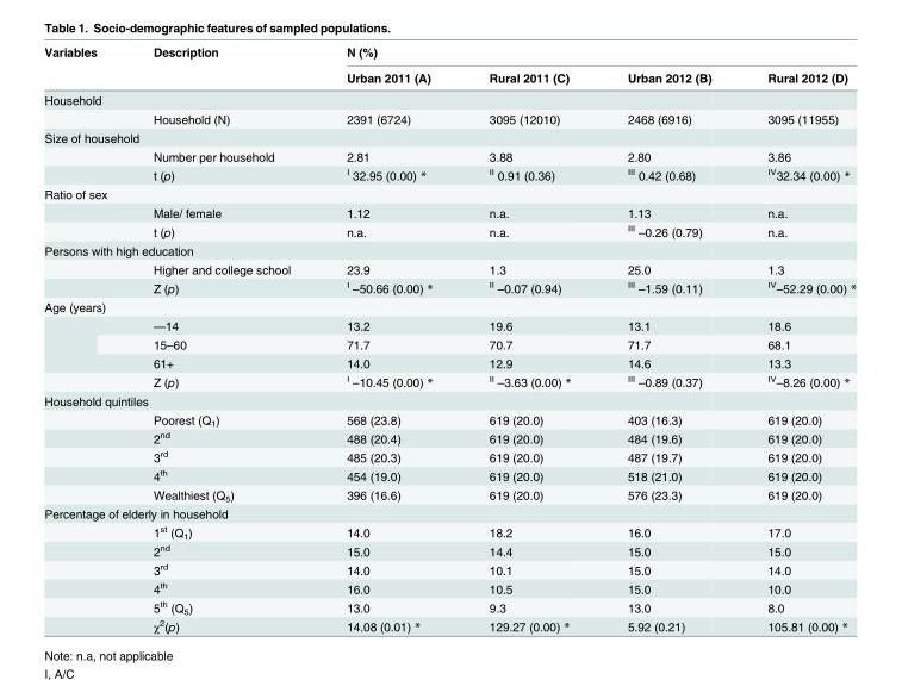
<table><thead><tr><td rowspan="2">Variables</td><td rowspan="2">Description</td><td colspan="4">N (%)</td></tr><tr><td>Urban 2011 (A)</td><td>Rural 2011 (C)</td><td>Urban 2012 (B)</td><td>Rural 2012 (D)</td></tr></thead><tbody><tr><td colspan="6">Household</td></tr><tr><td></td><td>Household (N)</td><td>2391 (6724)</td><td>3095 (12010)</td><td>2468 (6916)</td><td>3095 (11955)</td></tr><tr><td colspan="6">Size of household</td></tr><tr><td></td><td>Number per household</td><td>2.81</td><td>3.88</td><td>2.80</td><td>3.86</td></tr><tr><td></td><td>t (p)</td><td><sup>I</sup> 32.95 (0.00) *</td><td><sup>II</sup> 0.91 (0.36)</td><td><sup>III</sup> 0.42 (0.68)</td><td><sup>IV</sup>32.34 (0.00) *</td></tr><tr><td colspan="6">Ratio of sex</td></tr><tr><td></td><td>Male/ female</td><td>1.12</td><td>n.a.</td><td>1.13</td><td>n.a.</td></tr><tr><td></td><td>t (p)</td><td>n.a.</td><td>n.a.</td><td><sup>III</sup> –0.26 (0.79)</td><td>n.a.</td></tr><tr><td colspan="6">Persons with high education</td></tr><tr><td></td><td>Higher and college school</td><td>23.9</td><td>1.3</td><td>25.0</td><td>1.3</td></tr><tr><td></td><td>Z (p)</td><td><sup>I</sup> –50.66 (0.00) *</td><td><sup>II</sup> –0.07 (0.94)</td><td><sup>III</sup> –1.59 (0.11)</td><td><sup>IV</sup>–52.29 (0.00) *</td></tr><tr><td colspan="6">Age (years)</td></tr><tr><td rowspan="3"></td><td>—14</td><td>13.2</td><td>19.6</td><td>13.1</td><td>18.6</td></tr><tr><td>15–60</td><td>71.7</td><td>70.7</td><td>71.7</td><td>68.1</td></tr><tr><td>61+</td><td>14.0</td><td>12.9</td><td>14.6</td><td>13.3</td></tr><tr><td></td><td>Z (p)</td><td><sup>I</sup> –10.45 (0.00) *</td><td><sup>II</sup> –3.63 (0.00) *</td><td><sup>III</sup> –0.89 (0.37)</td><td><sup>IV</sup>–8.26 (0.00) *</td></tr><tr><td colspan="6">Household quintiles</td></tr><tr><td></td><td>Poorest (Q<sub>1</sub>)</td><td>568 (23.8)</td><td>619 (20.0)</td><td>403 (16.3)</td><td>619 (20.0)</td></tr><tr><td></td><td>2<sup>nd</sup></td><td>488 (20.4)</td><td>619 (20.0)</td><td>484 (19.6)</td><td>619 (20.0)</td></tr><tr><td></td><td>3<sup>rd</sup></td><td>485 (20.3)</td><td>619 (20.0)</td><td>487 (19.7)</td><td>619 (20.0)</td></tr><tr><td></td><td>4<sup>th</sup></td><td>454 (19.0)</td><td>619 (20.0)</td><td>518 (21.0)</td><td>619 (20.0)</td></tr><tr><td></td><td>Wealthiest (Q<sub>5</sub>)</td><td>396 (16.6)</td><td>619 (20.0)</td><td>576 (23.3)</td><td>619 (20.0)</td></tr><tr><td colspan="6">Percentage of elderly in household</td></tr><tr><td></td><td>1<sup>st</sup> (Q<sub>1</sub>)</td><td>14.0</td><td>18.2</td><td>16.0</td><td>17.0</td></tr><tr><td></td><td>2<sup>nd</sup></td><td>15.0</td><td>14.4</td><td>15.0</td><td>15.0</td></tr><tr><td></td><td>3<sup>rd</sup></td><td>14.0</td><td>10.1</td><td>15.0</td><td>14.0</td></tr><tr><td></td><td>4<sup>th</sup></td><td>16.0</td><td>10.5</td><td>15.0</td><td>10.0</td></tr><tr><td></td><td>5<sup>th</sup> (Q<sub>5</sub>)</td><td>13.0</td><td>9.3</td><td>13.0</td><td>8.0</td></tr><tr><td></td><td>χ<sup>2</sup>(p)</td><td>14.08 (0.01) *</td><td>129.27 (0.00) *</td><td>5.92 (0.21)</td><td>105.81 (0.00) *</td></tr></tbody></table>